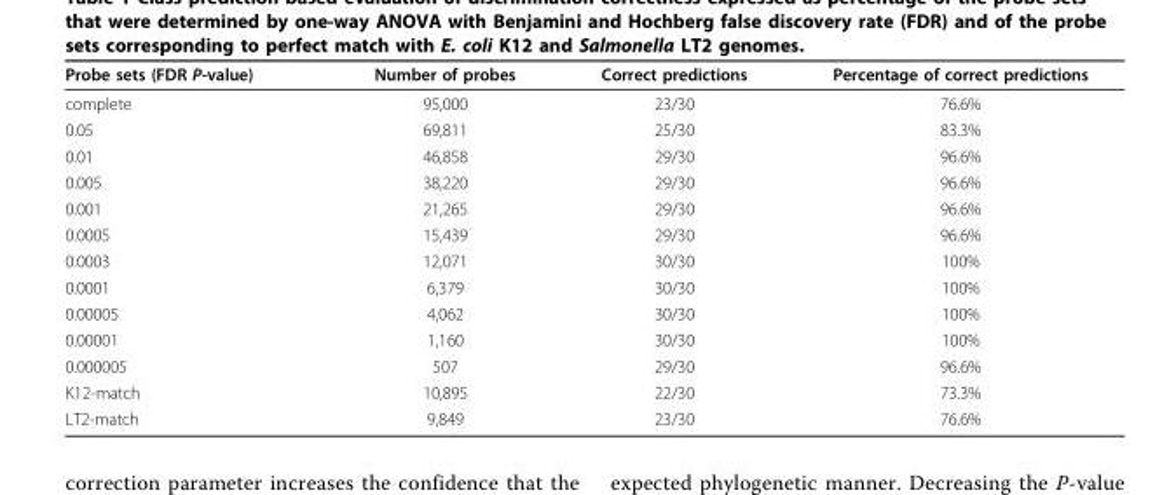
<table><thead><tr><td>Probe sets (FDR P-value)</td><td>Number of probes</td><td>Correct predictions</td><td>Percentage of correct predictions</td></tr></thead><tbody><tr><td>complete</td><td>95,000</td><td>23/30</td><td>76.6%</td></tr><tr><td>0.05</td><td>69,811</td><td>25/30</td><td>83.3%</td></tr><tr><td>0.01</td><td>46,858</td><td>29/30</td><td>96.6%</td></tr><tr><td>0.005</td><td>38,220</td><td>29/30</td><td>96.6%</td></tr><tr><td>0.001</td><td>21,265</td><td>29/30</td><td>96.6%</td></tr><tr><td>0.0005</td><td>15,439</td><td>29/30</td><td>96.6%</td></tr><tr><td>0.0003</td><td>12,071</td><td>30/30</td><td>100%</td></tr><tr><td>0.0001</td><td>6,379</td><td>30/30</td><td>100%</td></tr><tr><td>0.00005</td><td>4,062</td><td>30/30</td><td>100%</td></tr><tr><td>0.00001</td><td>1,160</td><td>30/30</td><td>100%</td></tr><tr><td>0.000005</td><td>507</td><td>29/30</td><td>96.6%</td></tr><tr><td>K12-match</td><td>10,895</td><td>22/30</td><td>73.3%</td></tr><tr><td>LT2-match</td><td>9,849</td><td>23/30</td><td>76.6%</td></tr></tbody></table>